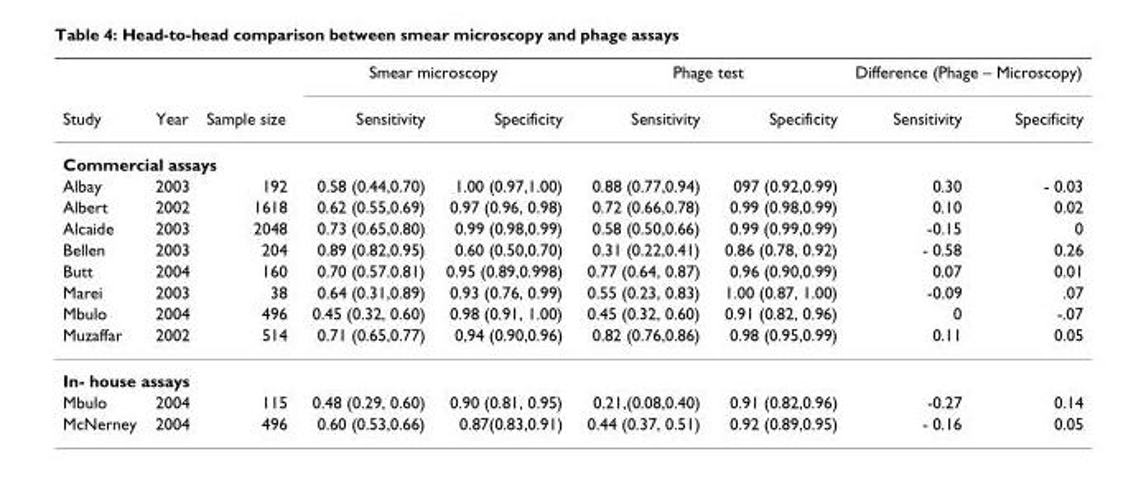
<table><thead><tr><td rowspan="2">Study</td><td rowspan="2">Year</td><td rowspan="2">Sample size</td><td colspan="2">Smear microscopy</td><td colspan="2">Phage test</td><td colspan="2">Difference (Phage – Microscopy)</td></tr><tr><td>Sensitivity</td><td>Specificity</td><td>Sensitivity</td><td>Specificity</td><td>Sensitivity</td><td>Specificity</td></tr></thead><tbody><tr><td colspan="9">Commercial assays</td></tr><tr><td>Albay</td><td>2003</td><td>192</td><td>0.58 (0.44,0.70)</td><td>1.00 (0.97,1.00)</td><td>0.88 (0.77,0.94)</td><td>097 (0.92,0.99)</td><td>0.30</td><td>- 0.03</td></tr><tr><td>Albert</td><td>2002</td><td>1618</td><td>0.62 (0.55,0.69)</td><td>0.97 (0.96, 0.98)</td><td>0.72 (0.66,0.78)</td><td>0.99 (0.98,0.99)</td><td>0.10</td><td>0.02</td></tr><tr><td>Alcaide</td><td>2003</td><td>2048</td><td>0.73 (0.65,0.80)</td><td>0.99 (0.98,0.99)</td><td>0.58 (0.50,0.66)</td><td>0.99 (0.99,0.99)</td><td>-0.15</td><td>0</td></tr><tr><td>Bellen</td><td>2003</td><td>204</td><td>0.89 (0.82,0.95)</td><td>0.60 (0.50,0.70)</td><td>0.31 (0.22,0.41)</td><td>0.86 (0.78, 0.92)</td><td>- 0.58</td><td>0.26</td></tr><tr><td>Butt</td><td>2004</td><td>160</td><td>0.70 (0.57.0.81)</td><td>0.95 (0.89,0.998)</td><td>0.77 (0.64, 0.87)</td><td>0.96 (0.90,0.99)</td><td>0.07</td><td>0.01</td></tr><tr><td>Marei</td><td>2003</td><td>38</td><td>0.64 (0.31,0.89)</td><td>0.93 (0.76, 0.99)</td><td>0.55 (0.23, 0.83)</td><td>1.00 (0.87, 1.00)</td><td>-0.09</td><td>.07</td></tr><tr><td>Mbulo</td><td>2004</td><td>496</td><td>0.45 (0.32, 0.60)</td><td>0.98 (0.91, 1.00)</td><td>0.45 (0.32, 0.60)</td><td>0.91 (0.82, 0.96)</td><td>0</td><td>-.07</td></tr><tr><td>Muzaffar</td><td>2002</td><td>514</td><td>0.71 (0.65,0.77)</td><td>0,94 (0.90,0.96)</td><td>0.82 (0.76,0.86)</td><td>0.98 (0.95,0.99)</td><td>0.11</td><td>0.05</td></tr><tr><td colspan="9">In- house assays</td></tr><tr><td>Mbulo</td><td>2004</td><td>115</td><td>0.48 (0.29, 0.60)</td><td>0.90 (0.81, 0.95)</td><td>0.21,(0.08,0.40)</td><td>0.91 (0.82,0.96)</td><td>-0.27</td><td>0.14</td></tr><tr><td>McNerney</td><td>2004</td><td>496</td><td>0.60 (0.53,0.66)</td><td>0.87(0.83,0.91)</td><td>0.44 (0.37, 0.51)</td><td>0.92 (0.89,0.95)</td><td>- 0.16</td><td>0.05</td></tr></tbody></table>